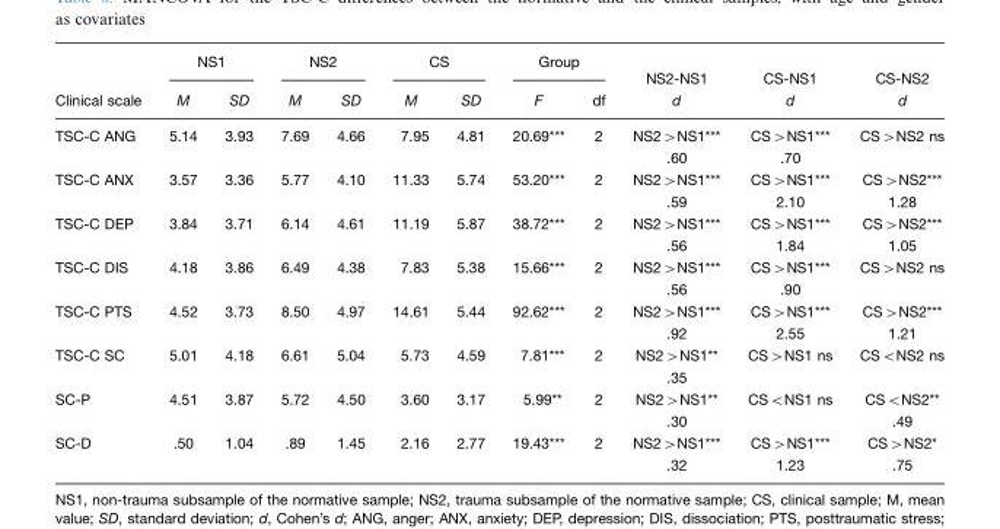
<table><thead><tr><td rowspan="3">Clinical scale</td><td colspan="2">NS1</td><td colspan="2">NS2</td><td colspan="2">CS</td><td colspan="2">Group</td><td rowspan="3">NS2-NS1 d</td><td rowspan="3">CS-NS1 d</td><td rowspan="3">CS-NS2 d</td></tr><tr><td rowspan="2">M</td><td rowspan="2">SD</td><td rowspan="2">M</td><td rowspan="2">SD</td><td rowspan="2">M</td><td rowspan="2">SD</td><td rowspan="2">F</td><td rowspan="2">df</td></tr><tr></tr></thead><tbody><tr><td>TSC-C ANG</td><td>5.14</td><td>3.93</td><td>7.69</td><td>4.66</td><td>7.95</td><td>4.81</td><td>20.69***</td><td>2</td><td>NS2&gt;NS1*** .60</td><td>CS&gt;NS1*** .70</td><td>CS&gt;NS2 ns</td></tr><tr><td>TSC-C ANX</td><td>3.57</td><td>3.36</td><td>5.77</td><td>4.10</td><td>11.33</td><td>5.74</td><td>53.20***</td><td>2</td><td>NS2&gt;NS1*** .59</td><td>CS&gt;NS1*** 2.10</td><td>CS&gt;NS2*** 1.28</td></tr><tr><td>TSC-C DEP</td><td>3.84</td><td>3.71</td><td>6.14</td><td>4.61</td><td>11.19</td><td>5.87</td><td>38.72***</td><td>2</td><td>NS2&gt;NS1*** .56</td><td>CS&gt;NS1*** 1.84</td><td>CS&gt;NS2*** 1.05</td></tr><tr><td>TSC-C DIS</td><td>4.18</td><td>3.86</td><td>6.49</td><td>4.38</td><td>7.83</td><td>5.38</td><td>15.66***</td><td>2</td><td>NS2&gt;NS1*** .56</td><td>CS&gt;NS1*** .90</td><td>CS&gt;NS2 ns</td></tr><tr><td>TSC-C PTS</td><td>4.52</td><td>3.73</td><td>8.50</td><td>4.97</td><td>14.61</td><td>5.44</td><td>92.62***</td><td>2</td><td>NS2&gt;NS1*** .92</td><td>CS&gt;NS1*** 2.55</td><td>CS&gt;NS2*** 1.21</td></tr><tr><td>TSC-C SC</td><td>5.01</td><td>4.18</td><td>6.61</td><td>5.04</td><td>5.73</td><td>4.59</td><td>7.81***</td><td>2</td><td>NS2&gt;NS1** .35</td><td>CS&gt;NS1 ns</td><td>CS&lt;NS2 ns</td></tr><tr><td>SC-P</td><td>4.51</td><td>3.87</td><td>5.72</td><td>4.50</td><td>3.60</td><td>3.17</td><td>5.99**</td><td>2</td><td>NS2&gt;NS1** .30</td><td>CS&lt;NS1 ns</td><td>CS&lt;NS2** .49</td></tr><tr><td>SC-D</td><td>.50</td><td>1.04</td><td>.89</td><td>1.45</td><td>2.16</td><td>2.77</td><td>19.43***</td><td>2</td><td>NS2&gt;NS1*** .32</td><td>CS&gt;NS1*** 1.23</td><td>CS&gt;NS2* .75</td></tr></tbody></table>